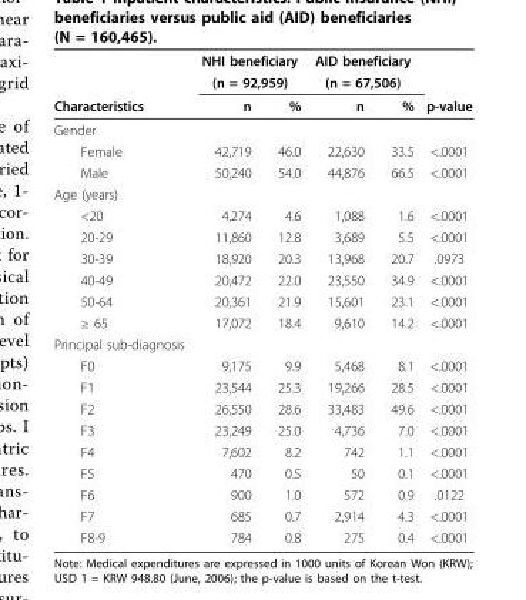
<table><thead><tr><td rowspan="3">Characteristics</td><td rowspan="2" colspan="2">NHI beneficiary (n = 92,959)</td><td rowspan="2" colspan="2">AID beneficiary (n = 67,506)</td><td rowspan="3">p-value</td></tr><tr></tr><tr><td>n</td><td>%</td><td>n</td><td>%</td></tr></thead><tbody><tr><td colspan="6">Gender</td></tr><tr><td>Female</td><td>42,719</td><td>46.0</td><td>22,630</td><td>33.5</td><td>&lt;.0001</td></tr><tr><td>Male</td><td>50,240</td><td>54.0</td><td>44,876</td><td>66.5</td><td>&lt;.0001</td></tr><tr><td colspan="6">Age (years)</td></tr><tr><td>&lt;20</td><td>4,274</td><td>4.6</td><td>1,088</td><td>1.6</td><td>&lt;.0001</td></tr><tr><td>20-29</td><td>11,860</td><td>12.8</td><td>3,689</td><td>5.5</td><td>&lt;.0001</td></tr><tr><td>30-39</td><td>18,920</td><td>20.3</td><td>13,968</td><td>20.7</td><td>.0973</td></tr><tr><td>40-49</td><td>20,472</td><td>22.0</td><td>23,550</td><td>34.9</td><td>&lt;.0001</td></tr><tr><td>50-64</td><td>20,361</td><td>21.9</td><td>15,601</td><td>23.1</td><td>&lt;.0001</td></tr><tr><td>≥ 65</td><td>17,072</td><td>18.4</td><td>9,610</td><td>14.2</td><td>&lt;.0001</td></tr><tr><td colspan="6">Principal sub-diagnosis</td></tr><tr><td>F0</td><td>9,175</td><td>9.9</td><td>5,468</td><td>8.1</td><td>&lt;.0001</td></tr><tr><td>F1</td><td>23,544</td><td>25.3</td><td>19,266</td><td>28.5</td><td>&lt;.0001</td></tr><tr><td>F2</td><td>26,550</td><td>28.6</td><td>33,483</td><td>49.6</td><td>&lt;.0001</td></tr><tr><td>F3</td><td>23,249</td><td>25.0</td><td>4,736</td><td>7.0</td><td>&lt;.0001</td></tr><tr><td>F4</td><td>7,602</td><td>8.2</td><td>742</td><td>1.1</td><td>&lt;.0001</td></tr><tr><td>F5</td><td>470</td><td>0.5</td><td>50</td><td>0.1</td><td>&lt;.0001</td></tr><tr><td>F6</td><td>900</td><td>1.0</td><td>572</td><td>0.9</td><td>.0122</td></tr><tr><td>F7</td><td>685</td><td>0.7</td><td>2,914</td><td>4.3</td><td>&lt;.0001</td></tr><tr><td>F8-9</td><td>784</td><td>0.8</td><td>275</td><td>0.4</td><td>&lt;.0001</td></tr></tbody></table>